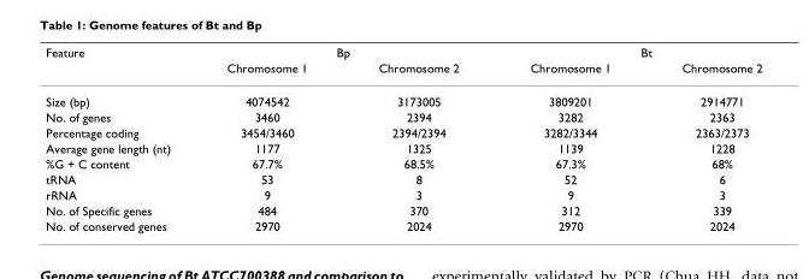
<table><thead><tr><td rowspan="2">Feature</td><td colspan="2">Bp</td><td colspan="2">Bt</td></tr><tr><td>Chromosome 1</td><td>Chromosome 2</td><td>Chromosome 1</td><td>Chromosome 2</td></tr></thead><tbody><tr><td>Size (bp)</td><td>4074542</td><td>3173005</td><td>3809201</td><td>2914771</td></tr><tr><td>No. of genes</td><td>3460</td><td>2394</td><td>3282</td><td>2363</td></tr><tr><td>Percentage coding</td><td>3454/3460</td><td>2394/2394</td><td>3282/3344</td><td>2363/2373</td></tr><tr><td>Average gene length (nt)</td><td>1177</td><td>1325</td><td>1139</td><td>1228</td></tr><tr><td>%G + C content</td><td>67.7%</td><td>68.5%</td><td>67.3%</td><td>68%</td></tr><tr><td>tRNA</td><td>53</td><td>8</td><td>52</td><td>6</td></tr><tr><td>rRNA</td><td>9</td><td>3</td><td>9</td><td>3</td></tr><tr><td>No. of Specific genes</td><td>484</td><td>370</td><td>312</td><td>339</td></tr><tr><td>No. of conserved genes</td><td>2970</td><td>2024</td><td>2970</td><td>2024</td></tr></tbody></table>